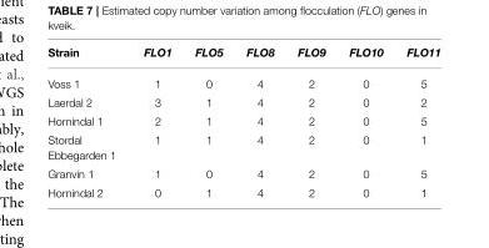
<table><thead><tr><td>Strain</td><td>FLO1</td><td>FLO5</td><td>FLO8</td><td>FLO9</td><td>FLO10</td><td>FLO11</td></tr></thead><tbody><tr><td>Voss 1</td><td>1</td><td>0</td><td>4</td><td>2</td><td>0</td><td>5</td></tr><tr><td>Laerdal 2</td><td>3</td><td>1</td><td>4</td><td>2</td><td>0</td><td>2</td></tr><tr><td>Hornindal 1</td><td>2</td><td>1</td><td>4</td><td>2</td><td>0</td><td>5</td></tr><tr><td>Stordal Ebbegarden 1</td><td>1</td><td>1</td><td>4</td><td>2</td><td>0</td><td>1</td></tr><tr><td>Granvin 1</td><td>1</td><td>0</td><td>4</td><td>2</td><td>0</td><td>5</td></tr><tr><td>Hornindal 2</td><td>0</td><td>1</td><td>4</td><td>2</td><td>0</td><td>1</td></tr></tbody></table>